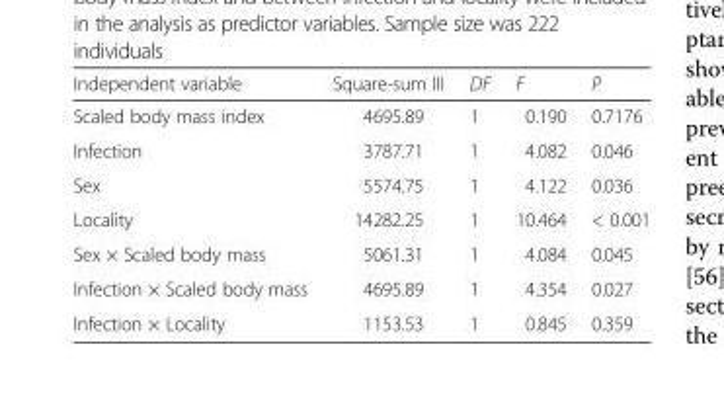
<table><thead><tr><td>Independent variable</td><td>Square-sum III</td><td>DF</td><td>F</td><td>P</td></tr></thead><tbody><tr><td>Scaled body mass index</td><td>4695.89</td><td>1</td><td>0.190</td><td>0.7176</td></tr><tr><td>Infection</td><td>3787.71</td><td>1</td><td>4.082</td><td>0.046</td></tr><tr><td>Sex</td><td>5574.75</td><td>1</td><td>4.122</td><td>0.036</td></tr><tr><td>Locality</td><td>14282.25</td><td>1</td><td>10.464</td><td>&lt; 0.001</td></tr><tr><td>Sex × Scaled body mass</td><td>5061.31</td><td>1</td><td>4.084</td><td>0.045</td></tr><tr><td>Infection × Scaled body mass</td><td>4695.89</td><td>1</td><td>4.354</td><td>0.027</td></tr><tr><td>Infection × Locality</td><td>1153.53</td><td>1</td><td>0.845</td><td>0.359</td></tr></tbody></table>